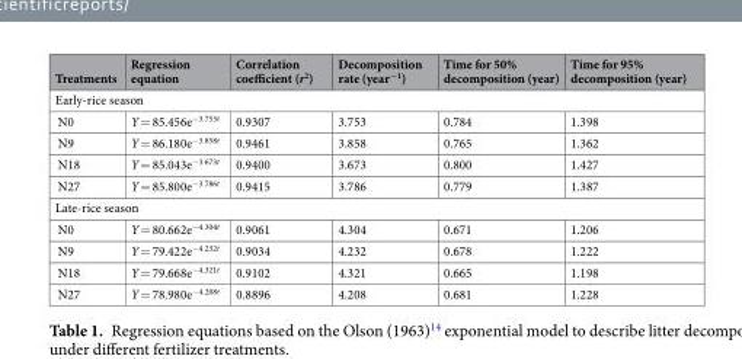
<table><thead><tr><td>Treatments</td><td>Regression equation</td><td>Correlation coefficient (r<sup>2</sup>)</td><td>Decomposition rate (year<sup>−1</sup>)</td><td>Time for 50% decomposition (year)</td><td>Time for 95% decomposition (year)</td></tr></thead><tbody><tr><td colspan="6">Early-rice season</td></tr><tr><td>N0</td><td>Y = 85.456e<sup>−3.753t</sup></td><td>0.9307</td><td>3.753</td><td>0.784</td><td>1.398</td></tr><tr><td>N9</td><td>Y = 86.180e<sup>−3.858t</sup></td><td>0.9461</td><td>3.858</td><td>0.765</td><td>1.362</td></tr><tr><td>N18</td><td>Y = 85.043e<sup>−3.673t</sup></td><td>0.9400</td><td>3.673</td><td>0.800</td><td>1.427</td></tr><tr><td>N27</td><td>Y = 85.800e<sup>−3.786t</sup></td><td>0.9415</td><td>3.786</td><td>0.779</td><td>1.387</td></tr><tr><td colspan="6">Late-rice season</td></tr><tr><td>N0</td><td>Y = 80.662e<sup>−4.304t</sup></td><td>0.9061</td><td>4.304</td><td>0.671</td><td>1.206</td></tr><tr><td>N9</td><td>Y = 79.422e<sup>−4.232t</sup></td><td>0.9034</td><td>4.232</td><td>0.678</td><td>1.222</td></tr><tr><td>N18</td><td>Y = 79.668e<sup>−4.321t</sup></td><td>0.9102</td><td>4.321</td><td>0.665</td><td>1.198</td></tr><tr><td>N27</td><td>Y = 78.980e<sup>−4.208t</sup></td><td>0.8896</td><td>4.208</td><td>0.681</td><td>1.228</td></tr></tbody></table>